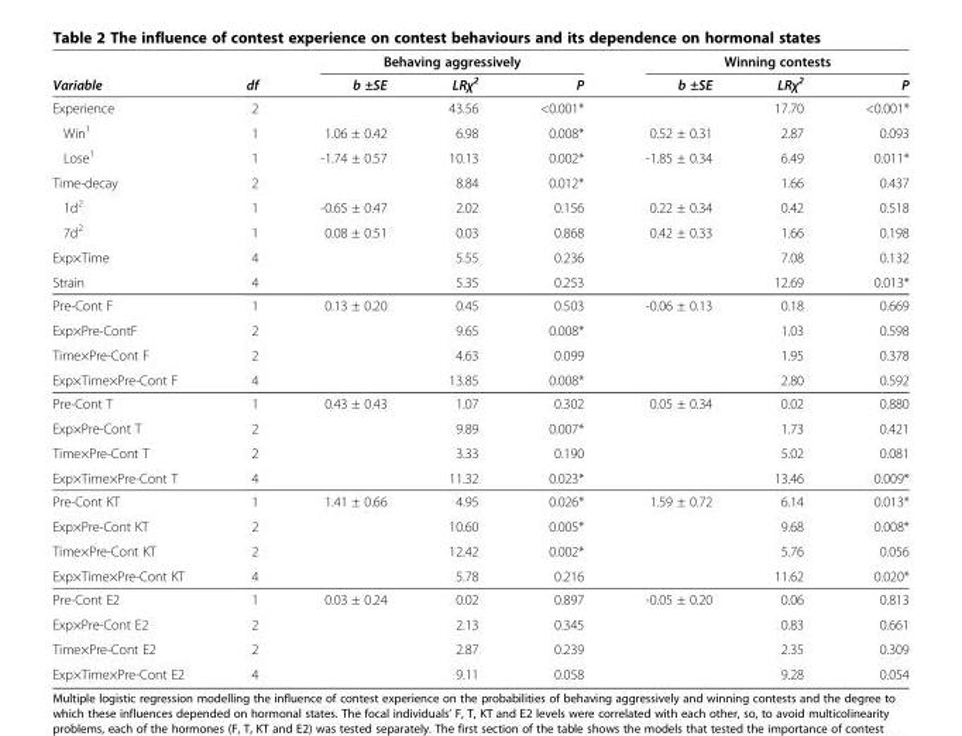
<table><thead><tr><td rowspan="2">Variable</td><td rowspan="2">df</td><td colspan="3">Behaving aggressively</td><td colspan="3">Winning contests</td></tr><tr><td>b ±SE</td><td>LRχ<sup>2</sup></td><td>P</td><td>b ±SE</td><td>LRχ<sup>2</sup></td><td>P</td></tr></thead><tbody><tr><td>Experience</td><td>2</td><td></td><td>43.56</td><td>&lt;0.001*</td><td></td><td>17.70</td><td>&lt;0.001*</td></tr><tr><td>Win<sup>1</sup></td><td>1</td><td>1.06 ± 0.42</td><td>6.98</td><td>0.008*</td><td>0.52 ± 0.31</td><td>2.87</td><td>0.093</td></tr><tr><td>Lose<sup>1</sup></td><td>1</td><td>-1.74 ± 0.57</td><td>10.13</td><td>0.002*</td><td>-1.85 ± 0.34</td><td>6.49</td><td>0.011*</td></tr><tr><td>Time-decay</td><td>2</td><td></td><td>8.84</td><td>0.012*</td><td></td><td>1.66</td><td>0.437</td></tr><tr><td>1d<sup>2</sup></td><td>1</td><td>-0.65 ± 0.47</td><td>2.02</td><td>0.156</td><td>0.22 ± 0.34</td><td>0.42</td><td>0.518</td></tr><tr><td>7d<sup>2</sup></td><td>1</td><td>0.08 ± 0.51</td><td>0.03</td><td>0.868</td><td>0.42 ± 0.33</td><td>1.66</td><td>0.198</td></tr><tr><td>Exp×Time</td><td>4</td><td></td><td>5.55</td><td>0.236</td><td></td><td>7.08</td><td>0.132</td></tr><tr><td>Strain</td><td>4</td><td></td><td>5.35</td><td>0.253</td><td></td><td>12.69</td><td>0.013*</td></tr><tr><td>Pre-Cont F</td><td>1</td><td>0.13 ± 0.20</td><td>0.45</td><td>0.503</td><td>-0.06 ± 0.13</td><td>0.18</td><td>0.669</td></tr><tr><td>Exp×Pre-ContF</td><td>2</td><td></td><td>9.65</td><td>0.008*</td><td></td><td>1.03</td><td>0.598</td></tr><tr><td>Time×Pre-Cont F</td><td>2</td><td></td><td>4.63</td><td>0.099</td><td></td><td>1.95</td><td>0.378</td></tr><tr><td>Exp×Time×Pre-Cont F</td><td>4</td><td></td><td>13.85</td><td>0.008*</td><td></td><td>2.80</td><td>0.592</td></tr><tr><td>Pre-Cont T</td><td>1</td><td>0.43 ± 0.43</td><td>1.07</td><td>0.302</td><td>0.05 ± 0.34</td><td>0.02</td><td>0.880</td></tr><tr><td>Exp×Pre-Cont T</td><td>2</td><td></td><td>9.89</td><td>0.007*</td><td></td><td>1.73</td><td>0.421</td></tr><tr><td>Time×Pre-Cont T</td><td>2</td><td></td><td>3.33</td><td>0.190</td><td></td><td>5.02</td><td>0.081</td></tr><tr><td>Exp×Time×Pre-Cont T</td><td>4</td><td></td><td>11.32</td><td>0.023*</td><td></td><td>13.46</td><td>0.009*</td></tr><tr><td>Pre-Cont KT</td><td>1</td><td>1.41 ± 0.66</td><td>4.95</td><td>0.026*</td><td>1.59 ± 0.72</td><td>6.14</td><td>0.013*</td></tr><tr><td>Exp×Pre-Cont KT</td><td>2</td><td></td><td>10.60</td><td>0.005*</td><td></td><td>9.68</td><td>0.008*</td></tr><tr><td>Time×Pre-Cont KT</td><td>2</td><td></td><td>12.42</td><td>0.002*</td><td></td><td>5.76</td><td>0.056</td></tr><tr><td>Exp×Time×Pre-Cont KT</td><td>4</td><td></td><td>5.78</td><td>0.216</td><td></td><td>11.62</td><td>0.020*</td></tr><tr><td>Pre-Cont E2</td><td>1</td><td>0.03 ± 0.24</td><td>0.02</td><td>0.897</td><td>-0.05 ± 0.20</td><td>0.06</td><td>0.813</td></tr><tr><td>Exp×Pre-Cont E2</td><td>2</td><td></td><td>2.13</td><td>0.345</td><td></td><td>0.83</td><td>0.661</td></tr><tr><td>Time×Pre-Cont E2</td><td>2</td><td></td><td>2.87</td><td>0.239</td><td></td><td>2.35</td><td>0.309</td></tr><tr><td>Exp×Time×Pre-Cont E2</td><td>4</td><td></td><td>9.11</td><td>0.058</td><td></td><td>9.28</td><td>0.054</td></tr></tbody></table>